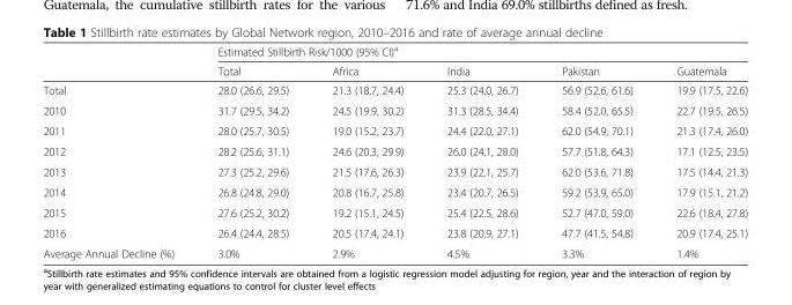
<table><thead><tr><td rowspan="2"></td><td colspan="5">Estimated Stillbirth Risk/1000 (95% CI)<sup>a</sup></td></tr><tr><td>Total</td><td>Africa</td><td>India</td><td>Pakistan</td><td>Guatemala</td></tr></thead><tbody><tr><td>Total</td><td>28.0 (26.6, 29.5)</td><td>21.3 (18.7, 24.4)</td><td>25.3 (24.0, 26.7)</td><td>56.9 (52.6, 61.6)</td><td>19.9 (17.5, 22.6)</td></tr><tr><td>2010</td><td>31.7 (29.5, 34.2)</td><td>24.5 (19.9, 30.2)</td><td>31.3 (28.5, 34.4)</td><td>58.4 (52.0, 65.5)</td><td>22.7 (19.5, 26.5)</td></tr><tr><td>2011</td><td>28.0 (25.7, 30.5)</td><td>19.0 (15.2, 23.7)</td><td>24.4 (22.0, 27.1)</td><td>62.0 (54.9, 70.1)</td><td>21.3 (17.4, 26.0)</td></tr><tr><td>2012</td><td>28.2 (25.6, 31.1)</td><td>24.6 (20.3, 29.9)</td><td>26.0 (24.1, 28.0)</td><td>57.7 (51.8, 64.3)</td><td>17.1 (12.5, 23.5)</td></tr><tr><td>2013</td><td>27.3 (25.2, 29.6)</td><td>21.5 (17.6, 26.3)</td><td>23.9 (22.1, 25.7)</td><td>62.0 (53.6, 71.8)</td><td>17.5 (14.4, 21.3)</td></tr><tr><td>2014</td><td>26.8 (24.8, 29.0)</td><td>20.8 (16.7, 25.8)</td><td>23.4 (20.7, 26.5)</td><td>59.2 (53.9, 65.0)</td><td>17.9 (15.1, 21.2)</td></tr><tr><td>2015</td><td>27.6 (25.2, 30.2)</td><td>19.2 (15.1, 24.5)</td><td>25.4 (22.5, 28.6)</td><td>52.7 (47.0, 59.0)</td><td>22.6 (18.4, 27.8)</td></tr><tr><td>2016</td><td>26.4 (24.4, 28.5)</td><td>20.5 (17.4, 24.1)</td><td>23.8 (20.9, 27.1)</td><td>47.7 (41.5, 54.8)</td><td>20.9 (17.4, 25.1)</td></tr><tr><td>Average Annual Decline (%)</td><td>3.0%</td><td>2.9%</td><td>4.5%</td><td>3.3%</td><td>1.4%</td></tr></tbody></table>